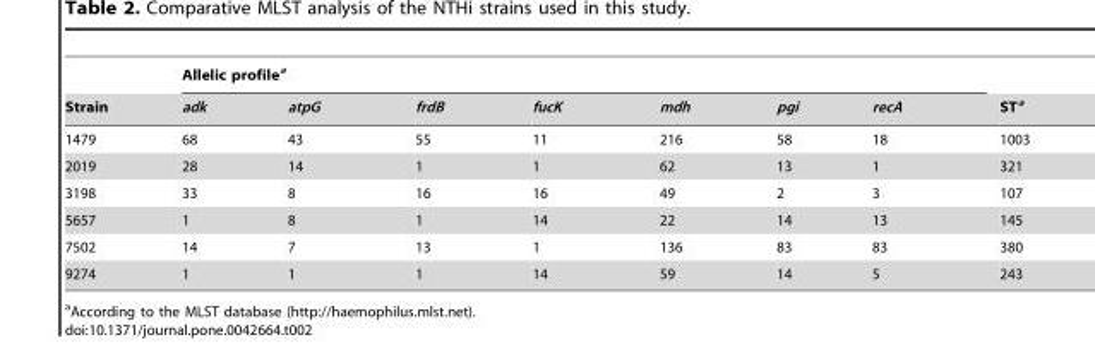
<table><thead><tr><td rowspan="2">Strain</td><td colspan="7">Allelic profile<sup>a</sup></td><td rowspan="2">ST<sup>a</sup></td></tr><tr><td>adk</td><td>atpG</td><td>frdB</td><td>fucK</td><td>mdh</td><td>pgi</td><td>recA</td></tr></thead><tbody><tr><td>1479</td><td>68</td><td>43</td><td>55</td><td>11</td><td>216</td><td>58</td><td>18</td><td>1003</td></tr><tr><td>2019</td><td>28</td><td>14</td><td>1</td><td>1</td><td>62</td><td>13</td><td>1</td><td>321</td></tr><tr><td>3198</td><td>33</td><td>8</td><td>16</td><td>16</td><td>49</td><td>2</td><td>3</td><td>107</td></tr><tr><td>5657</td><td>1</td><td>8</td><td>1</td><td>14</td><td>22</td><td>14</td><td>13</td><td>145</td></tr><tr><td>7502</td><td>14</td><td>7</td><td>13</td><td>1</td><td>136</td><td>83</td><td>83</td><td>380</td></tr><tr><td>9274</td><td>1</td><td>1</td><td>1</td><td>14</td><td>59</td><td>14</td><td>5</td><td>243</td></tr></tbody></table>